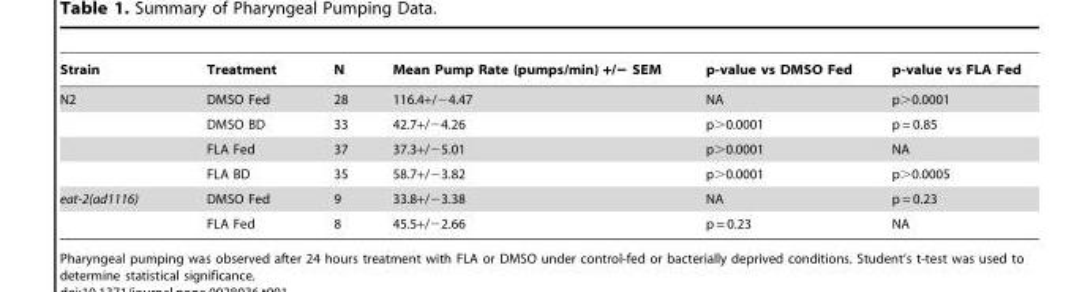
<table><thead><tr><td>Strain</td><td>Treatment</td><td>N</td><td>Mean Pump Rate (pumps/min) +/− SEM</td><td>p-value vs DMSO Fed</td><td>p-value vs FLA Fed</td></tr></thead><tbody><tr><td rowspan="4">N2</td><td>DMSO Fed</td><td>28</td><td>116.4+/−4.47</td><td>NA</td><td>p&gt;0.0001</td></tr><tr><td>DMSO BD</td><td>33</td><td>42.7+/−4.26</td><td>p&gt;0.0001</td><td>p = 0.85</td></tr><tr><td>FLA Fed</td><td>37</td><td>37.3+/−5.01</td><td>p&gt;0.0001</td><td>NA</td></tr><tr><td>FLA BD</td><td>35</td><td>58.7+/−3.82</td><td>p&gt;0.0001</td><td>p&gt;0.0005</td></tr><tr><td rowspan="2">eat-2(ad1116)</td><td>DMSO Fed</td><td>9</td><td>33.8+/−3.38</td><td>NA</td><td>p = 0.23</td></tr><tr><td>FLA Fed</td><td>8</td><td>45.5+/−2.66</td><td>p = 0.23</td><td>NA</td></tr></tbody></table>